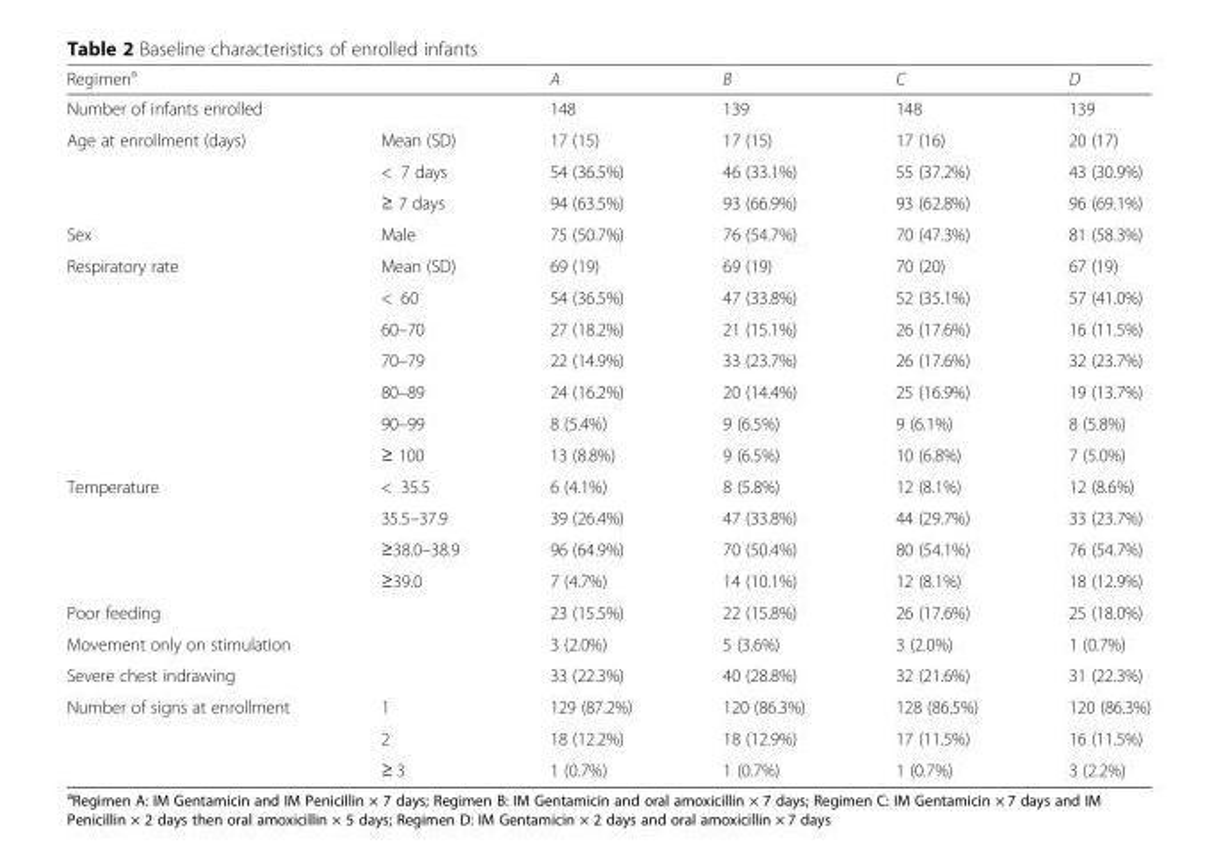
<table><thead><tr><td>Regimen<sup>a</sup></td><td></td><td>A</td><td>B</td><td>C</td><td>D</td></tr></thead><tbody><tr><td colspan="2">Number of infants enrolled</td><td>148</td><td>139</td><td>148</td><td>139</td></tr><tr><td rowspan="3">Age at enrollment (days)</td><td>Mean (SD)</td><td>17 (15)</td><td>17 (15)</td><td>17 (16)</td><td>20 (17)</td></tr><tr><td>&lt; 7 days</td><td>54 (36.5%)</td><td>46 (33.1%)</td><td>55 (37.2%)</td><td>43 (30.9%)</td></tr><tr><td>≥ 7 days</td><td>94 (63.5%)</td><td>93 (66.9%)</td><td>93 (62.8%)</td><td>96 (69.1%)</td></tr><tr><td>Sex</td><td>Male</td><td>75 (50.7%)</td><td>76 (54.7%)</td><td>70 (47.3%)</td><td>81 (58.3%)</td></tr><tr><td rowspan="7">Respiratory rate</td><td>Mean (SD)</td><td>69 (19)</td><td>69 (19)</td><td>70 (20)</td><td>67 (19)</td></tr><tr><td>&lt; 60</td><td>54 (36.5%)</td><td>47 (33.8%)</td><td>52 (35.1%)</td><td>57 (41.0%)</td></tr><tr><td>60–70</td><td>27 (18.2%)</td><td>21 (15.1%)</td><td>26 (17.6%)</td><td>16 (11.5%)</td></tr><tr><td>70–79</td><td>22 (14.9%)</td><td>33 (23.7%)</td><td>26 (17.6%)</td><td>32 (23.7%)</td></tr><tr><td>80–89</td><td>24 (16.2%)</td><td>20 (14.4%)</td><td>25 (16.9%)</td><td>19 (13.7%)</td></tr><tr><td>90–99</td><td>8 (5.4%)</td><td>9 (6.5%)</td><td>9 (6.1%)</td><td>8 (5.8%)</td></tr><tr><td>≥ 100</td><td>13 (8.8%)</td><td>9 (6.5%)</td><td>10 (6.8%)</td><td>7 (5.0%)</td></tr><tr><td rowspan="4">Temperature</td><td>&lt; 35.5</td><td>6 (4.1%)</td><td>8 (5.8%)</td><td>12 (8.1%)</td><td>12 (8.6%)</td></tr><tr><td>35.5–37.9</td><td>39 (26.4%)</td><td>47 (33.8%)</td><td>44 (29.7%)</td><td>33 (23.7%)</td></tr><tr><td>≥38.0–38.9</td><td>96 (64.9%)</td><td>70 (50.4%)</td><td>80 (54.1%)</td><td>76 (54.7%)</td></tr><tr><td>≥39.0</td><td>7 (4.7%)</td><td>14 (10.1%)</td><td>12 (8.1%)</td><td>18 (12.9%)</td></tr><tr><td>Poor feeding</td><td></td><td>23 (15.5%)</td><td>22 (15.8%)</td><td>26 (17.6%)</td><td>25 (18.0%)</td></tr><tr><td>Movement only on stimulation</td><td></td><td>3 (2.0%)</td><td>5 (3.6%)</td><td>3 (2.0%)</td><td>1 (0.7%)</td></tr><tr><td>Severe chest indrawing</td><td></td><td>33 (22.3%)</td><td>40 (28.8%)</td><td>32 (21.6%)</td><td>31 (22.3%)</td></tr><tr><td rowspan="3">Number of signs at enrollment</td><td>1</td><td>129 (87.2%)</td><td>120 (86.3%)</td><td>128 (86.5%)</td><td>120 (86.3%)</td></tr><tr><td>2</td><td>18 (12.2%)</td><td>18 (12.9%)</td><td>17 (11.5%)</td><td>16 (11.5%)</td></tr><tr><td>≥ 3</td><td>1 (0.7%)</td><td>1 (0.7%)</td><td>1 (0.7%)</td><td>3 (2.2%)</td></tr></tbody></table>